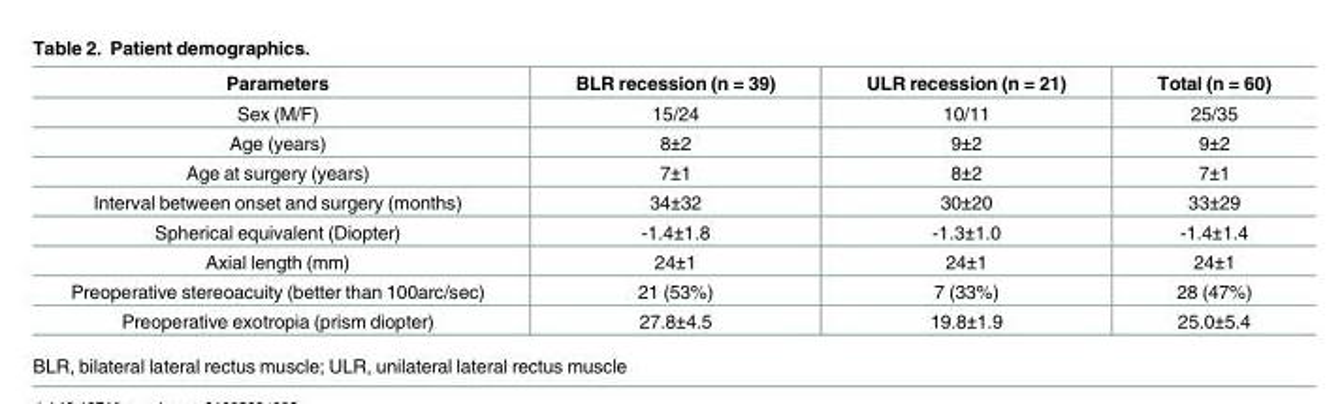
<table><thead><tr><td>Parameters</td><td>BLR recession (n = 39)</td><td>ULR recession (n = 21)</td><td>Total (n = 60)</td></tr></thead><tbody><tr><td>Sex (M/F)</td><td>15/24</td><td>10/11</td><td>25/35</td></tr><tr><td>Age (years)</td><td>8±2</td><td>9±2</td><td>9±2</td></tr><tr><td>Age at surgery (years)</td><td>7±1</td><td>8±2</td><td>7±1</td></tr><tr><td>Interval between onset and surgery (months)</td><td>34±32</td><td>30±20</td><td>33±29</td></tr><tr><td>Spherical equivalent (Diopter)</td><td>-1.4±1.8</td><td>-1.3±1.0</td><td>-1.4±1.4</td></tr><tr><td>Axial length (mm)</td><td>24±1</td><td>24±1</td><td>24±1</td></tr><tr><td>Preoperative stereoacuity (better than 100arc/sec)</td><td>21 (53%)</td><td>7 (33%)</td><td>28 (47%)</td></tr><tr><td>Preoperative exotropia (prism diopter)</td><td>27.8±4.5</td><td>19.8±1.9</td><td>25.0±5.4</td></tr></tbody></table>